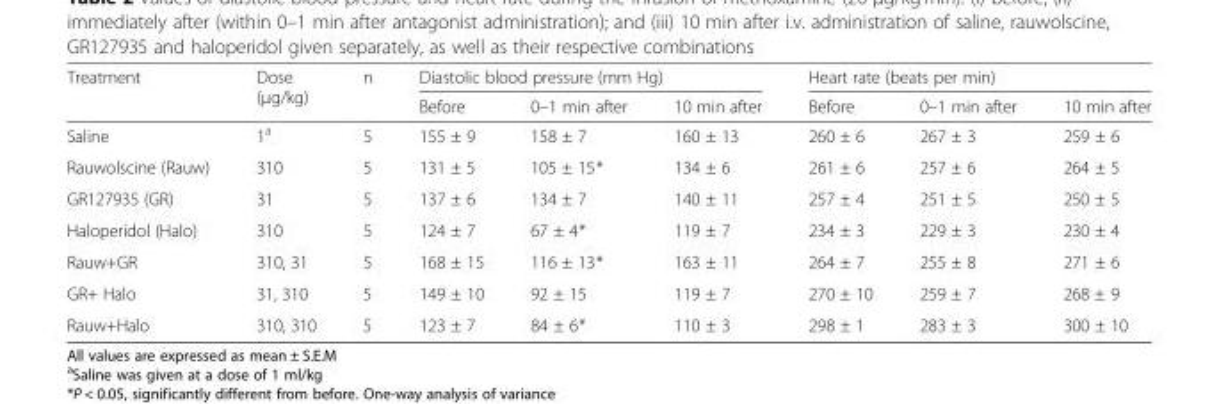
<table><thead><tr><td rowspan="2">Treatment</td><td rowspan="2">Dose (μg/kg)</td><td rowspan="2">n</td><td colspan="3">Diastolic blood pressure (mm Hg)</td><td colspan="3">Heart rate (beats per min)</td></tr><tr><td>Before</td><td>0–1 min after</td><td>10 min after</td><td>Before</td><td>0–1 min after</td><td>10 min after</td></tr></thead><tbody><tr><td>Saline</td><td>1<sup>a</sup></td><td>5</td><td>155 ± 9</td><td>158 ± 7</td><td>160 ± 13</td><td>260 ± 6</td><td>267 ± 3</td><td>259 ± 6</td></tr><tr><td>Rauwolscine (Rauw)</td><td>310</td><td>5</td><td>131 ± 5</td><td>105 ± 15*</td><td>134 ± 6</td><td>261 ± 6</td><td>257 ± 6</td><td>264 ± 5</td></tr><tr><td>GR127935 (GR)</td><td>31</td><td>5</td><td>137 ± 6</td><td>134 ± 7</td><td>140 ± 11</td><td>257 ± 4</td><td>251 ± 5</td><td>250 ± 5</td></tr><tr><td>Haloperidol (Halo)</td><td>310</td><td>5</td><td>124 ± 7</td><td>67 ± 4*</td><td>119 ± 7</td><td>234 ± 3</td><td>229 ± 3</td><td>230 ± 4</td></tr><tr><td>Rauw+GR</td><td>310, 31</td><td>5</td><td>168 ± 15</td><td>116 ± 13*</td><td>163 ± 11</td><td>264 ± 7</td><td>255 ± 8</td><td>271 ± 6</td></tr><tr><td>GR+ Halo</td><td>31, 310</td><td>5</td><td>149 ± 10</td><td>92 ± 15</td><td>119 ± 7</td><td>270 ± 10</td><td>259 ± 7</td><td>268 ± 9</td></tr><tr><td>Rauw+Halo</td><td>310, 310</td><td>5</td><td>123 ± 7</td><td>84 ± 6*</td><td>110 ± 3</td><td>298 ± 1</td><td>283 ± 3</td><td>300 ± 10</td></tr></tbody></table>